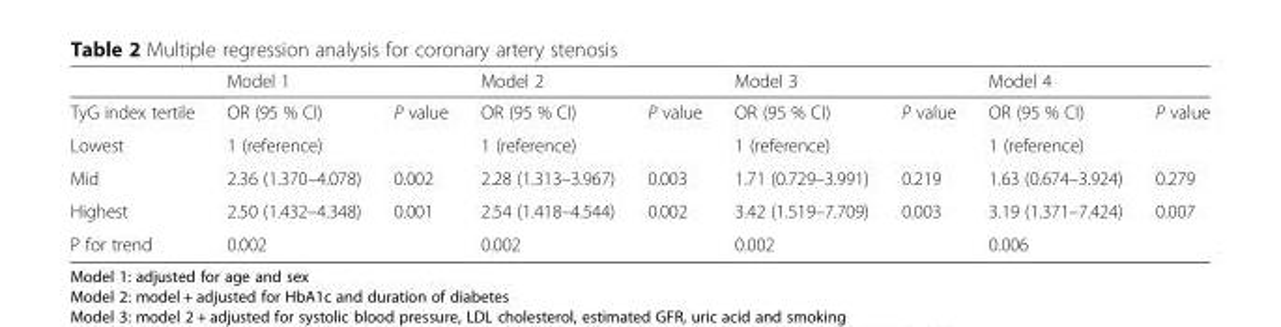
<table><thead><tr><td rowspan="2">TyG index tertile</td><td colspan="2">Model 1</td><td colspan="2">Model 2</td><td colspan="2">Model 3</td><td colspan="2">Model 4</td></tr><tr><td>OR (95 % CI)</td><td>P value</td><td>OR (95 % CI)</td><td>P value</td><td>OR (95 % CI)</td><td>P value</td><td>OR (95 % CI)</td><td>P value</td></tr></thead><tbody><tr><td>Lowest</td><td>1 (reference)</td><td></td><td>1 (reference)</td><td></td><td>1 (reference)</td><td></td><td>1 (reference)</td><td></td></tr><tr><td>Mid</td><td>2.36 (1.370–4.078)</td><td>0.002</td><td>2.28 (1.313–3.967)</td><td>0.003</td><td>1.71 (0.729–3.991)</td><td>0.219</td><td>1.63 (0.674–3.924)</td><td>0.279</td></tr><tr><td>Highest</td><td>2.50 (1.432–4.348)</td><td>0.001</td><td>2.54 (1.418–4.544)</td><td>0.002</td><td>3.42 (1.519–7.709)</td><td>0.003</td><td>3.19 (1.371–7.424)</td><td>0.007</td></tr><tr><td>P for trend</td><td colspan="2">0.002</td><td colspan="2">0.002</td><td colspan="2">0.002</td><td colspan="2">0.006</td></tr></tbody></table>